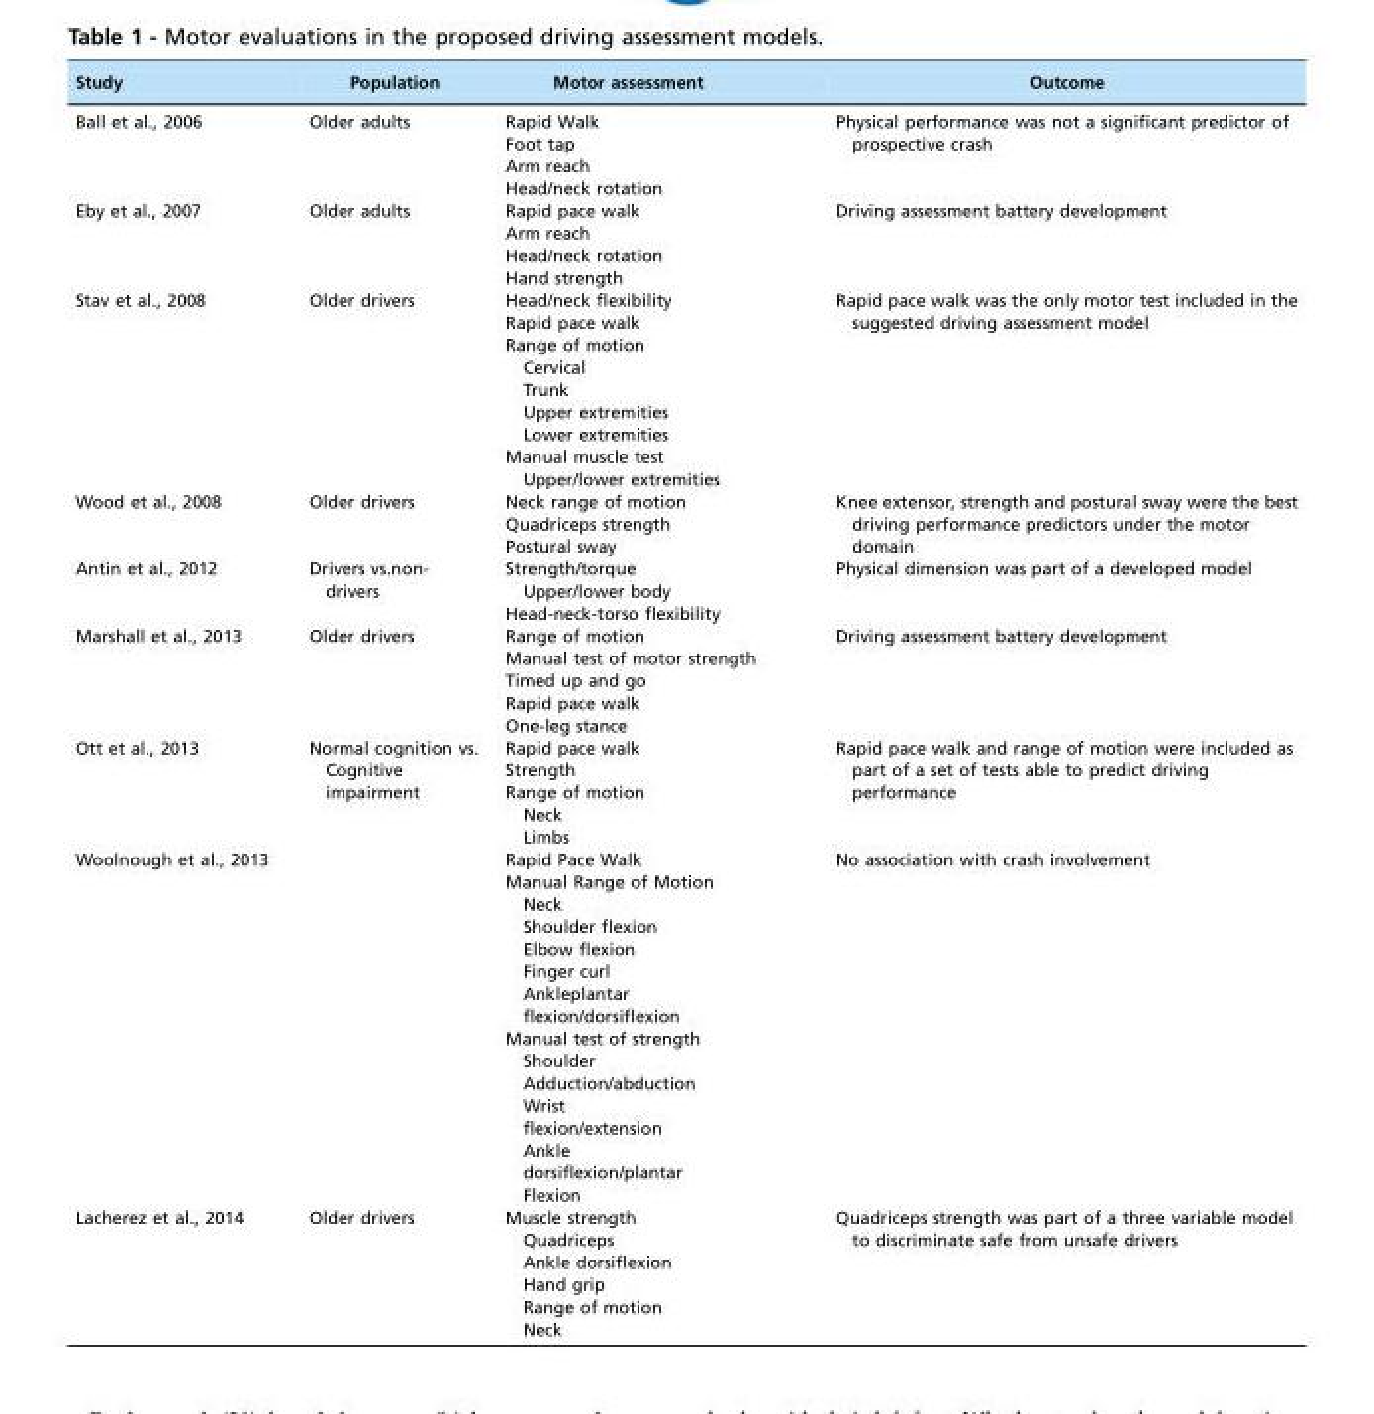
<table><thead><tr><td>Study</td><td>Population</td><td>Motor assessment</td><td>Outcome</td></tr></thead><tbody><tr><td>Ball et al., 2006</td><td>Older adults</td><td>Rapid Walk Foot tap Arm reach Head/neck rotation</td><td>Physical performance was not a significant predictor of prospective crash</td></tr><tr><td>Eby et al., 2007</td><td>Older adults</td><td>Rapid pace walk Arm reach Head/neck rotation Hand strength</td><td>Driving assessment battery development</td></tr><tr><td>Stav et al., 2008</td><td>Older drivers</td><td>Head/neck flexibility Rapid pace walk Range of motion Cervical Trunk Upper extremities Lower extremities Manual muscle test Upper/lower extremities</td><td>Rapid pace walk was the only motor test included in the suggested driving assessment model</td></tr><tr><td>Wood et al., 2008</td><td>Older drivers</td><td>Neck range of motion Quadriceps strength Postural sway</td><td>Knee extensor, strength and postural sway were the best driving performance predictors under the motor domain</td></tr><tr><td>Antin et al., 2012</td><td>Drivers vs.non- drivers</td><td>Strength/torque Upper/lower body Head-neck-torso flexibility</td><td>Physical dimension was part of a developed model</td></tr><tr><td>Marshall et al., 2013</td><td>Older drivers</td><td>Range of motion Manual test of motor strength Timed up and go Rapid pace walk One-leg stance</td><td>Driving assessment battery development</td></tr><tr><td>Ott et al., 2013</td><td>Normal cognition vs. Cognitive impairment</td><td>Rapid pace walk Strength Range of motion Neck Limbs</td><td>Rapid pace walk and range of motion were included as part of a set of tests able to predict driving performance</td></tr><tr><td>Woolnough et al., 2013</td><td></td><td>Rapid Pace Walk Manual Range of Motion Neck Shoulder flexion Elbow flexion Finger curl Ankleplantar flexion/dorsiflexion Manual test of strength Shoulder Adduction/abduction Wrist flexion/extension Ankle dorsiflexion/plantar Flexion</td><td>No association with crash involvement</td></tr><tr><td>Lacherez et al., 2014</td><td>Older drivers</td><td>Muscle strength Quadriceps Ankle dorsiflexion Hand grip Range of motion Neck</td><td>Quadriceps strength was part of a three variable model to discriminate safe from unsafe drivers</td></tr></tbody></table>